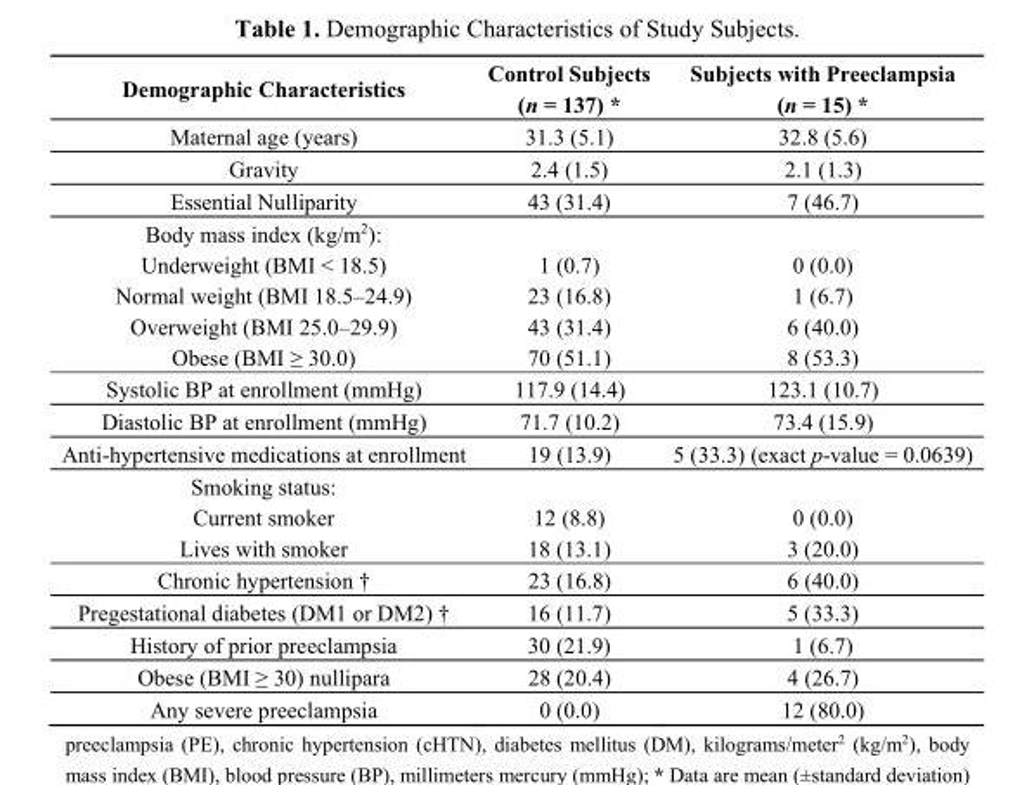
<table><thead><tr><td>Demographic Characteristics</td><td>Control Subjects (n = 137) *</td><td>Subjects with Preeclampsia (n = 15) *</td></tr></thead><tbody><tr><td>Maternal age (years)</td><td>31.3 (5.1)</td><td>32.8 (5.6)</td></tr><tr><td>Gravity</td><td>2.4 (1.5)</td><td>2.1 (1.3)</td></tr><tr><td>Essential Nulliparity</td><td>43 (31.4)</td><td>7 (46.7)</td></tr><tr><td colspan="3">Body mass index (kg/m<sup>2</sup>):</td></tr><tr><td>Underweight (BMI &lt; 18.5)</td><td>1 (0.7)</td><td>0 (0.0)</td></tr><tr><td>Normal weight (BMI 18.5–24.9)</td><td>23 (16.8)</td><td>1 (6.7)</td></tr><tr><td>Overweight (BMI 25.0–29.9)</td><td>43 (31.4)</td><td>6 (40.0)</td></tr><tr><td>Obese (BMI ≥ 30.0)</td><td>70 (51.1)</td><td>8 (53.3)</td></tr><tr><td>Systolic BP at enrollment (mmHg)</td><td>117.9 (14.4)</td><td>123.1 (10.7)</td></tr><tr><td>Diastolic BP at enrollment (mmHg)</td><td>71.7 (10.2)</td><td>73.4 (15.9)</td></tr><tr><td>Anti-hypertensive medications at enrollment</td><td>19 (13.9)</td><td>5 (33.3) (exact p-value = 0.0639)</td></tr><tr><td colspan="3">Smoking status:</td></tr><tr><td>Current smoker</td><td>12 (8.8)</td><td>0 (0.0)</td></tr><tr><td>Lives with smoker</td><td>18 (13.1)</td><td>3 (20.0)</td></tr><tr><td>Chronic hypertension †</td><td>23 (16.8)</td><td>6 (40.0)</td></tr><tr><td>Pregestational diabetes (DM1 or DM2) †</td><td>16 (11.7)</td><td>5 (33.3)</td></tr><tr><td>History of prior preeclampsia</td><td>30 (21.9)</td><td>1 (6.7)</td></tr><tr><td>Obese (BMI ≥ 30) nullipara</td><td>28 (20.4)</td><td>4 (26.7)</td></tr><tr><td>Any severe preeclampsia</td><td>0 (0.0)</td><td>12 (80.0)</td></tr></tbody></table>